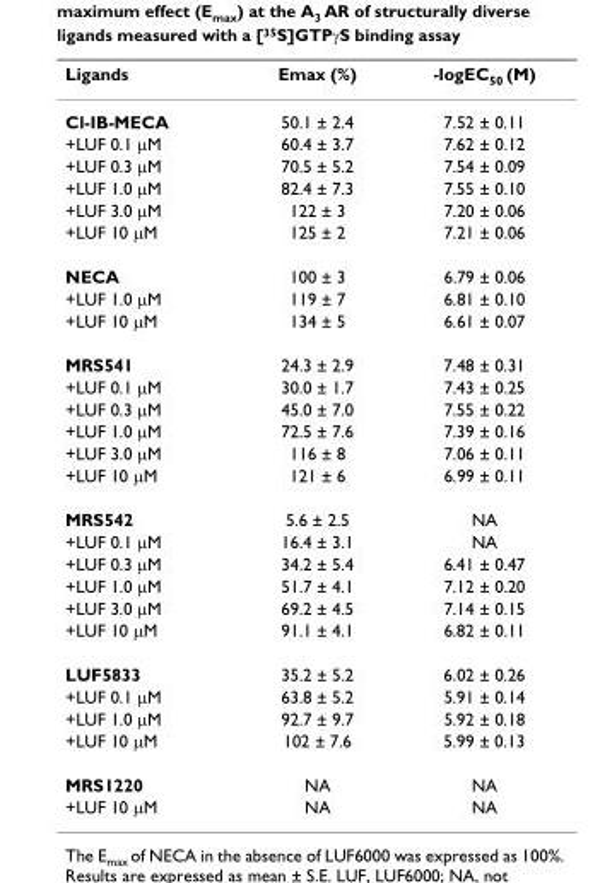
<table><thead><tr><td>Ligands</td><td>Emax (%)</td><td>-logEC<sub>50</sub> (M)</td></tr></thead><tbody><tr><td>Cl-IB-MECA</td><td>50.1 ± 2.4</td><td>7.52 ± 0.11</td></tr><tr><td>+LUF 0.1 μM</td><td>60.4 ± 3.7</td><td>7.62 ± 0.12</td></tr><tr><td>+LUF 0.3 μM</td><td>70.5 ± 5.2</td><td>7.54 ± 0.09</td></tr><tr><td>+LUF 1.0 μM</td><td>82.4 ± 7.3</td><td>7.55 ± 0.10</td></tr><tr><td>+LUF 3.0 μM</td><td>122 ± 3</td><td>7.20 ± 0.06</td></tr><tr><td>+LUF 10 μM</td><td>125 ± 2</td><td>7.21 ± 0.06</td></tr><tr><td>NECA</td><td>100 ± 3</td><td>6.79 ± 0.06</td></tr><tr><td>+LUF 1.0 μM</td><td>119 ± 7</td><td>6.81 ± 0.10</td></tr><tr><td>+LUF 10 μM</td><td>134 ± 5</td><td>6.61 ± 0.07</td></tr><tr><td>MRS541</td><td>24.3 ± 2.9</td><td>7.48 ± 0.31</td></tr><tr><td>+LUF 0.1 μM</td><td>30.0 ± 1.7</td><td>7.43 ± 0.25</td></tr><tr><td>+LUF 0.3 μM</td><td>45.0 ± 7.0</td><td>7.55 ± 0.22</td></tr><tr><td>+LUF 1.0 μM</td><td>72.5 ± 7.6</td><td>7.39 ± 0.16</td></tr><tr><td>+LUF 3.0 μM</td><td>116 ± 8</td><td>7.06 ± 0.11</td></tr><tr><td>+LUF 10 μM</td><td>121 ± 6</td><td>6.99 ± 0.11</td></tr><tr><td>MRS542</td><td>5.6 ± 2.5</td><td>NA</td></tr><tr><td>+LUF 0.1 μM</td><td>16.4 ± 3.1</td><td>NA</td></tr><tr><td>+LUF 0.3 μM</td><td>34.2 ± 5.4</td><td>6.41 ± 0.47</td></tr><tr><td>+LUF 1.0 μM</td><td>51.7 ± 4.1</td><td>7.12 ± 0.20</td></tr><tr><td>+LUF 3.0 μM</td><td>69.2 ± 4.5</td><td>7.14 ± 0.15</td></tr><tr><td>+LUF 10 μM</td><td>91.1 ± 4.1</td><td>6.82 ± 0.11</td></tr><tr><td>LUF5833</td><td>35.2 ± 5.2</td><td>6.02 ± 0.26</td></tr><tr><td>+LUF 0.1 μM</td><td>63.8 ± 5.2</td><td>5.91 ± 0.14</td></tr><tr><td>+LUF 1.0 μM</td><td>92.7 ± 9.7</td><td>5.92 ± 0.18</td></tr><tr><td>+LUF 10 μM</td><td>102 ± 7.6</td><td>5.99 ± 0.13</td></tr><tr><td>MRS1220</td><td>NA</td><td>NA</td></tr><tr><td>+LUF 10 μM</td><td>NA</td><td>NA</td></tr></tbody></table>